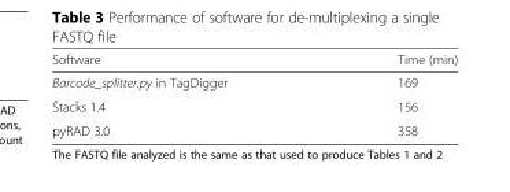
<table><thead><tr><td>Software</td><td>Time (min)</td></tr></thead><tbody><tr><td>Barcode_splitter.py in TagDigger</td><td>169</td></tr><tr><td>Stacks 1.4</td><td>156</td></tr><tr><td>pyRAD 3.0</td><td>358</td></tr></tbody></table>